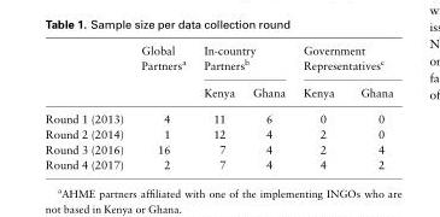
<table><thead><tr><td rowspan="2"></td><td rowspan="2">Global Partners<sup>a</sup></td><td colspan="2">In-country Partners<sup>b</sup></td><td colspan="2">Government Representatives<sup>c</sup></td></tr><tr><td>Kenya</td><td>Ghana</td><td>Kenya</td><td>Ghana</td></tr></thead><tbody><tr><td>Round 1 (2013)</td><td>4</td><td>11</td><td>6</td><td>0</td><td>0</td></tr><tr><td>Round 2 (2014)</td><td>1</td><td>12</td><td>4</td><td>2</td><td>0</td></tr><tr><td>Round 3 (2016)</td><td>16</td><td>7</td><td>4</td><td>2</td><td>4</td></tr><tr><td>Round 4 (2017)</td><td>2</td><td>7</td><td>4</td><td>4</td><td>2</td></tr></tbody></table>